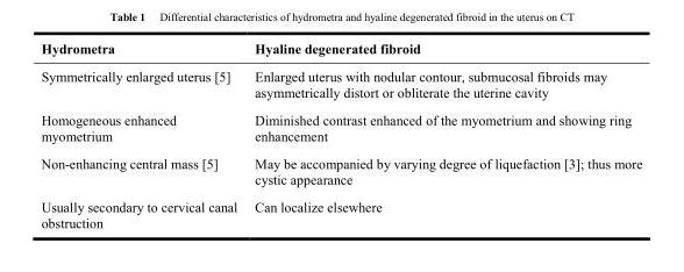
<table><thead><tr><td>Hydrometra</td><td>Hyaline degenerated fibroid</td></tr></thead><tbody><tr><td>Symmetrically enlarged uterus [5]</td><td>Enlarged uterus with nodular contour, submucosal fibroids may asymmetrically distort or obliterate the uterine cavity</td></tr><tr><td>Homogeneous enhanced myometrium</td><td>Diminished contrast enhanced of the myometrium and showing ring enhancement</td></tr><tr><td>Non-enhancing central mass [5]</td><td>May be accompanied by varying degree of liquefaction [3]; thus more cystic appearance</td></tr><tr><td>Usually secondary to cervical canal obstruction</td><td>Can localize elsewhere</td></tr></tbody></table>